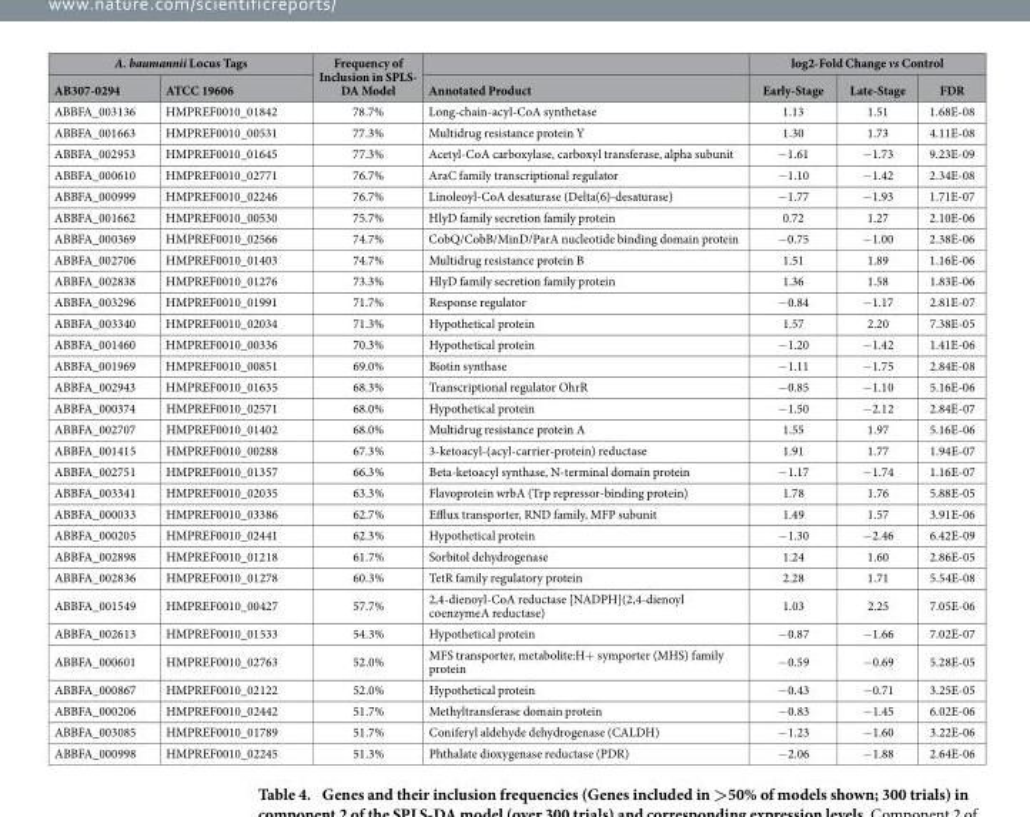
<table><thead><tr><td colspan="2">A. baumannii Locus Tags</td><td rowspan="2">Frequency of Inclusion in SPLS- DA Model</td><td rowspan="2">Annotated Product</td><td colspan="3">log2-Fold Change vs Control</td></tr><tr><td>AB307-0294</td><td>ATCC 19606</td><td>Early-Stage</td><td>Late-Stage</td><td>FDR</td></tr></thead><tbody><tr><td>ABBFA_003136</td><td>HMPREF0010_01842</td><td>78.7%</td><td>Long-chain-acyl-CoA synthetase</td><td>1.13</td><td>1.51</td><td>1.68E-08</td></tr><tr><td>ABBFA_001663</td><td>HMPREF0010_00531</td><td>77.3%</td><td>Multidrug resistance protein Y</td><td>1.30</td><td>1.73</td><td>4.11E-08</td></tr><tr><td>ABBFA_002953</td><td>HMPREF0010_01645</td><td>77.3%</td><td>Acetyl-CoA carboxylase, carboxyl transferase, alpha subunit</td><td>− 1.61</td><td>− 1.73</td><td>9.23E-09</td></tr><tr><td>ABBFA_000610</td><td>HMPREF0010_02771</td><td>76.7%</td><td>AraC family transcriptional regulator</td><td>− 1.10</td><td>− 1.42</td><td>2.34E-08</td></tr><tr><td>ABBFA_000999</td><td>HMPREF0010_02246</td><td>76.7%</td><td>Linoleoyl-CoA desaturase (Delta(6)-desaturase)</td><td>− 1.77</td><td>− 1.93</td><td>1.71E-07</td></tr><tr><td>ABBFA_001662</td><td>HMPREF0010_00530</td><td>75.7%</td><td>HlyD family secretion family protein</td><td>0.72</td><td>1.27</td><td>2.10E-06</td></tr><tr><td>ABBFA_000369</td><td>HMPREF0010_02566</td><td>74.7%</td><td>CobQ/CobB/MinD/ParA nucleotide binding domain protein</td><td>− 0.75</td><td>− 1.00</td><td>2.38E-06</td></tr><tr><td>ABBFA_002706</td><td>HMPREF0010_01403</td><td>74.7%</td><td>Multidrug resistance protein B</td><td>1.51</td><td>1.89</td><td>1.16E-06</td></tr><tr><td>ABBFA_002838</td><td>HMPREF0010_01276</td><td>73.3%</td><td>HlyD family secretion family protein</td><td>1.36</td><td>1.58</td><td>1.83E-06</td></tr><tr><td>ABBFA_003296</td><td>HMPREF0010_01991</td><td>71.7%</td><td>Response regulator</td><td>− 0.84</td><td>− 1.17</td><td>2.81E-07</td></tr><tr><td>ABBFA_003340</td><td>HMPREF0010_02034</td><td>71.3%</td><td>Hypothetical protein</td><td>1.57</td><td>2.20</td><td>7.38E-05</td></tr><tr><td>ABBFA_001460</td><td>HMPREF0010_00336</td><td>70.3%</td><td>Hypothetical protein</td><td>− 1.20</td><td>− 1.42</td><td>1.41E-06</td></tr><tr><td>ABBFA_001969</td><td>HMPREF0010_00851</td><td>69.0%</td><td>Biotin synthase</td><td>− 1.11</td><td>− 1.75</td><td>2.84E-08</td></tr><tr><td>ABBFA_002943</td><td>HMPREF0010_01635</td><td>68.3%</td><td>Transcriptional regulator OhrR</td><td>− 0.85</td><td>− 1.10</td><td>5.16E-06</td></tr><tr><td>ABBFA_000374</td><td>HMPREF0010_02571</td><td>68.0%</td><td>Hypothetical protein</td><td>− 1.50</td><td>− 2.12</td><td>2.84E-07</td></tr><tr><td>ABBFA_002707</td><td>HMPREF0010_01402</td><td>68.0%</td><td>Multidrug resistance protein A</td><td>1.55</td><td>1.97</td><td>5.16E-06</td></tr><tr><td>ABBFA_001415</td><td>HMPREF0010_00288</td><td>67.3%</td><td>3-ketoacyl-(acyl-carrier-protein) reductase</td><td>1.91</td><td>1.77</td><td>1.94E-07</td></tr><tr><td>ABBFA_002751</td><td>HMPREF0010_01357</td><td>66.3%</td><td>Beta-ketoacyl synthase, N-terminal domain protein</td><td>− 1.17</td><td>− 1.74</td><td>1.16E-07</td></tr><tr><td>ABBFA_003341</td><td>HMPREF0010_02035</td><td>63.3%</td><td>Flavoprotein wrbA (Trp repressor-binding protein)</td><td>1.78</td><td>1.76</td><td>5.88E-05</td></tr><tr><td>ABBFA_000033</td><td>HMPREF0010_03386</td><td>62.7%</td><td>Efflux transporter, RND family, MFP subunit</td><td>1.49</td><td>1.57</td><td>3.91E-06</td></tr><tr><td>ABBFA_000205</td><td>HMPREF0010_02441</td><td>62.3%</td><td>Hypothetical protein</td><td>− 1.30</td><td>− 2.46</td><td>6.42E-09</td></tr><tr><td>ABBFA_002898</td><td>HMPREF0010_01218</td><td>61.7%</td><td>Sorbitol dehydrogenase</td><td>1.24</td><td>1.60</td><td>2.86E-05</td></tr><tr><td>ABBFA_002836</td><td>HMPREF0010_01278</td><td>60.3%</td><td>TetR family regulatory protein</td><td>2.28</td><td>1.71</td><td>5.54E-08</td></tr><tr><td>ABBFA_001549</td><td>HMPREF0010_00427</td><td>57.7%</td><td>2,4-dienoyl-CoA reductase [NADPH](2,4-dienoyl coenzymeA reductase)</td><td>1.03</td><td>2.25</td><td>7.05E-06</td></tr><tr><td>ABBFA_002613</td><td>HMPREF0010_01533</td><td>54.3%</td><td>Hypothetical protein</td><td>− 0.87</td><td>− 1.66</td><td>7.02E-07</td></tr><tr><td>ABBFA_000601</td><td>HMPREF0010_02763</td><td>52.0%</td><td>MFS transporter, metabolite:H+ symporter (MHS) family protein</td><td>− 0.59</td><td>− 0.69</td><td>5.28E-05</td></tr><tr><td>ABBFA_000867</td><td>HMPREF0010_02122</td><td>52.0%</td><td>Hypothetical protein</td><td>− 0.43</td><td>− 0.71</td><td>3.25E-05</td></tr><tr><td>ABBFA_000206</td><td>HMPREF0010_02442</td><td>51.7%</td><td>Methyltransferase domain protein</td><td>− 0.83</td><td>− 1.45</td><td>6.02E-06</td></tr><tr><td>ABBFA_003085</td><td>HMPREF0010_01789</td><td>51.7%</td><td>Coniferyl aldehyde dehydrogenase (CALDH)</td><td>− 1.23</td><td>− 1.60</td><td>3.22E-06</td></tr><tr><td>ABBFA_000998</td><td>HMPREF0010_02245</td><td>51.3%</td><td>Phthalate dioxygenase reductase (PDR)</td><td>− 2.06</td><td>− 1.88</td><td>2.64E-06</td></tr></tbody></table>